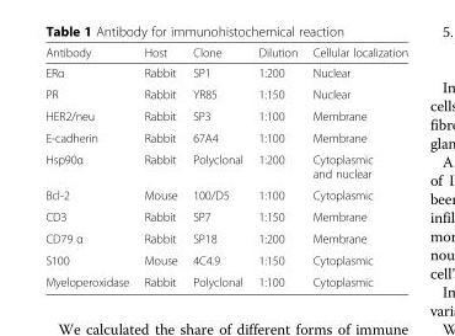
<table><thead><tr><td>Antibody</td><td>Host</td><td>Clone</td><td>Dilution</td><td>Cellular localization</td></tr></thead><tbody><tr><td>ERα</td><td>Rabbit</td><td>SP1</td><td>1:200</td><td>Nuclear</td></tr><tr><td>PR</td><td>Rabbit</td><td>YR85</td><td>1:150</td><td>Nuclear</td></tr><tr><td>HER2/neu</td><td>Rabbit</td><td>SP3</td><td>1:100</td><td>Membrane</td></tr><tr><td>E-cadherin</td><td>Rabbit</td><td>67A4</td><td>1:100</td><td>Membrane</td></tr><tr><td>Hsp90α</td><td>Rabbit</td><td>Polyclonal</td><td>1:200</td><td>Cytoplasmic and nuclear</td></tr><tr><td>Bcl-2</td><td>Mouse</td><td>100/D5</td><td>1:100</td><td>Cytoplasmic</td></tr><tr><td>CD3</td><td>Rabbit</td><td>SP7</td><td>1:150</td><td>Membrane</td></tr><tr><td>CD79 α</td><td>Rabbit</td><td>SP18</td><td>1:200</td><td>Membrane</td></tr><tr><td>S100</td><td>Mouse</td><td>4C4.9</td><td>1:150</td><td>Cytoplasmic</td></tr><tr><td>Myeloperoxidase</td><td>Rabbit</td><td>Polyclonal</td><td>1:100</td><td>Cytoplasmic</td></tr></tbody></table>